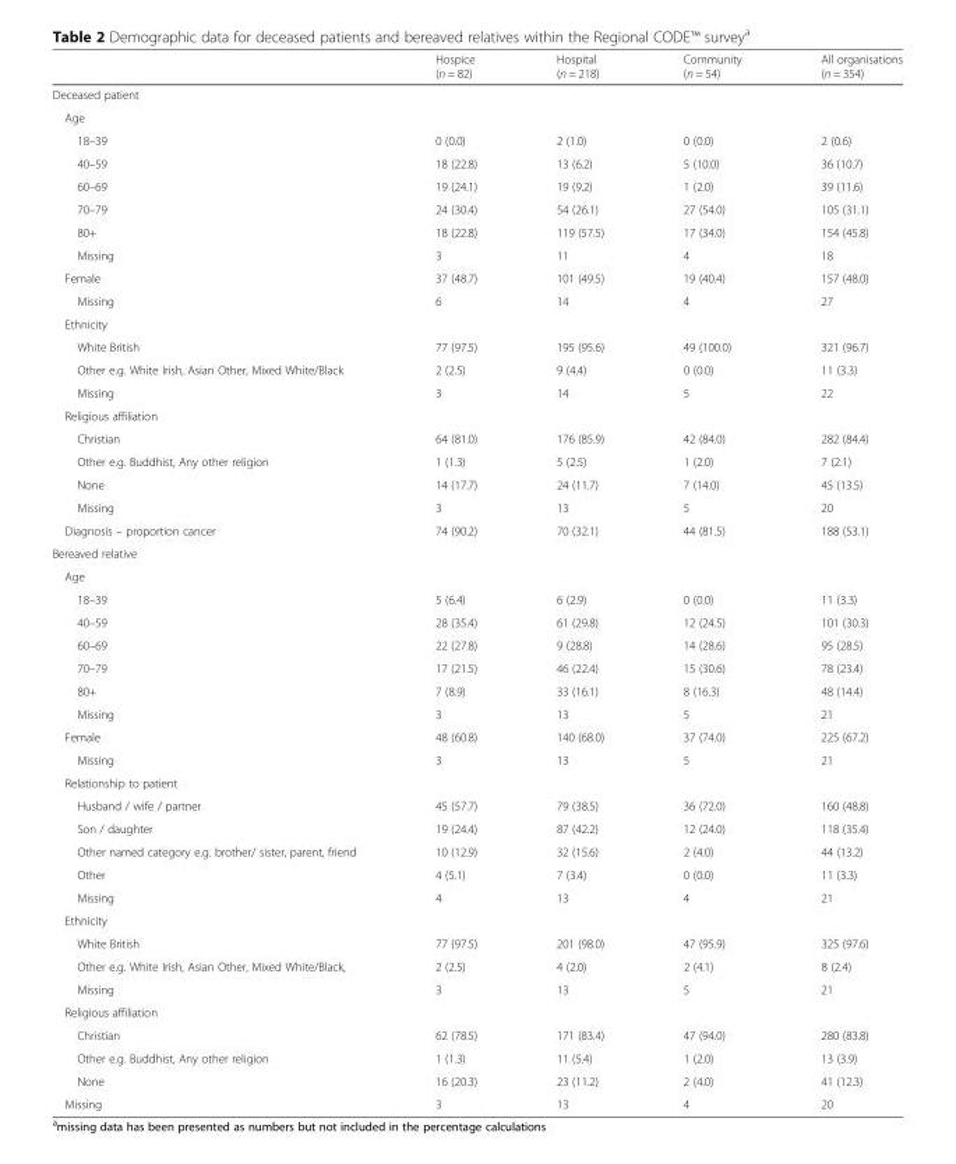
<table><thead><tr><td></td><td>Hospice (n = 82)</td><td>Hospital (n = 218)</td><td>Community (n = 54)</td><td>All organisations (n = 354)</td></tr></thead><tbody><tr><td colspan="5">Deceased patient</td></tr><tr><td colspan="5">Age</td></tr><tr><td>18–39</td><td>0 (0.0)</td><td>2 (1.0)</td><td>0 (0.0)</td><td>2 (0.6)</td></tr><tr><td>40–59</td><td>18 (22.8)</td><td>13 (6.2)</td><td>5 (10.0)</td><td>36 (10.7)</td></tr><tr><td>60–69</td><td>19 (24.1)</td><td>19 (9.2)</td><td>1 (2.0)</td><td>39 (11.6)</td></tr><tr><td>70–79</td><td>24 (30.4)</td><td>54 (26.1)</td><td>27 (54.0)</td><td>105 (31.1)</td></tr><tr><td>80+</td><td>18 (22.8)</td><td>119 (57.5)</td><td>17 (34.0)</td><td>154 (45.8)</td></tr><tr><td>Missing</td><td>3</td><td>11</td><td>4</td><td>18</td></tr><tr><td>Female</td><td>37 (48.7)</td><td>101 (49.5)</td><td>19 (40.4)</td><td>157 (48.0)</td></tr><tr><td>Missing</td><td>6</td><td>14</td><td>4</td><td>27</td></tr><tr><td colspan="5">Ethnicity</td></tr><tr><td>White British</td><td>77 (97.5)</td><td>195 (95.6)</td><td>49 (100.0)</td><td>321 (96.7)</td></tr><tr><td>Other e.g. White Irish, Asian Other, Mixed White/Black</td><td>2 (2.5)</td><td>9 (4.4)</td><td>0 (0.0)</td><td>11 (3.3)</td></tr><tr><td>Missing</td><td>3</td><td>14</td><td>5</td><td>22</td></tr><tr><td colspan="5">Religious affiliation</td></tr><tr><td>Christian</td><td>64 (81.0)</td><td>176 (85.9)</td><td>42 (84.0)</td><td>282 (84.4)</td></tr><tr><td>Other e.g. Buddhist, Any other religion</td><td>1 (1.3)</td><td>5 (2.5)</td><td>1 (2.0)</td><td>7 (2.1)</td></tr><tr><td>None</td><td>14 (17.7)</td><td>24 (11.7)</td><td>7 (14.0)</td><td>45 (13.5)</td></tr><tr><td>Missing</td><td>3</td><td>13</td><td>5</td><td>20</td></tr><tr><td>Diagnosis – proportion cancer</td><td>74 (90.2)</td><td>70 (32.1)</td><td>44 (81.5)</td><td>188 (53.1)</td></tr><tr><td colspan="5">Bereaved relative</td></tr><tr><td colspan="5">Age</td></tr><tr><td>18–39</td><td>5 (6.4)</td><td>6 (2.9)</td><td>0 (0.0)</td><td>11 (3.3)</td></tr><tr><td>40–59</td><td>28 (35.4)</td><td>61 (29.8)</td><td>12 (24.5)</td><td>101 (30.3)</td></tr><tr><td>60–69</td><td>22 (27.8)</td><td>9 (28.8)</td><td>14 (28.6)</td><td>95 (28.5)</td></tr><tr><td>70–79</td><td>17 (21.5)</td><td>46 (22.4)</td><td>15 (30.6)</td><td>78 (23.4)</td></tr><tr><td>80+</td><td>7 (8.9)</td><td>33 (16.1)</td><td>8 (16.3)</td><td>48 (14.4)</td></tr><tr><td>Missing</td><td>3</td><td>13</td><td>5</td><td>21</td></tr><tr><td>Female</td><td>48 (60.8)</td><td>140 (68.0)</td><td>37 (74.0)</td><td>225 (67.2)</td></tr><tr><td>Missing</td><td>3</td><td>13</td><td>5</td><td>21</td></tr><tr><td colspan="5">Relationship to patient</td></tr><tr><td>Husband / wife / partner</td><td>45 (57.7)</td><td>79 (38.5)</td><td>36 (72.0)</td><td>160 (48.8)</td></tr><tr><td>Son / daughter</td><td>19 (24.4)</td><td>87 (42.2)</td><td>12 (24.0)</td><td>118 (35.4)</td></tr><tr><td>Other named category e.g. brother/ sister, parent, friend</td><td>10 (12.9)</td><td>32 (15.6)</td><td>2 (4.0)</td><td>44 (13.2)</td></tr><tr><td>Other</td><td>4 (5.1)</td><td>7 (3.4)</td><td>0 (0.0)</td><td>11 (3.3)</td></tr><tr><td>Missing</td><td>4</td><td>13</td><td>4</td><td>21</td></tr><tr><td colspan="5">Ethnicity</td></tr><tr><td>White British</td><td>77 (97.5)</td><td>201 (98.0)</td><td>47 (95.9)</td><td>325 (97.6)</td></tr><tr><td>Other e.g. White Irish, Asian Other, Mixed White/Black,</td><td>2 (2.5)</td><td>4 (2.0)</td><td>2 (4.1)</td><td>8 (2.4)</td></tr><tr><td>Missing</td><td>3</td><td>13</td><td>5</td><td>21</td></tr><tr><td colspan="5">Religious affiliation</td></tr><tr><td>Christian</td><td>62 (78.5)</td><td>171 (83.4)</td><td>47 (94.0)</td><td>280 (83.8)</td></tr><tr><td>Other e.g. Buddhist, Any other religion</td><td>1 (1.3)</td><td>11 (5.4)</td><td>1 (2.0)</td><td>13 (3.9)</td></tr><tr><td>None</td><td>16 (20.3)</td><td>23 (11.2)</td><td>2 (4.0)</td><td>41 (12.3)</td></tr><tr><td>Missing</td><td>3</td><td>13</td><td>4</td><td>20</td></tr></tbody></table>